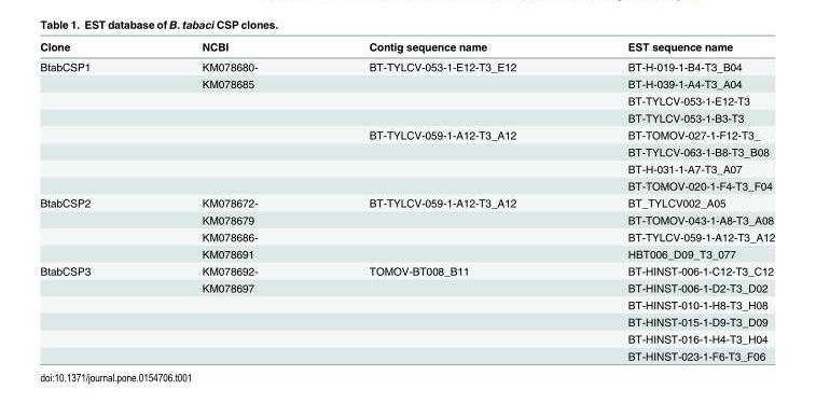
<table><thead><tr><td>Clone</td><td>NCBI</td><td>Contig sequence name</td><td>EST sequence name</td></tr></thead><tbody><tr><td rowspan="8">BtabCSP1</td><td>KM078680-</td><td>BT-TYLCV-053-1-E12-T3_E12</td><td>BT-H-019-1-B4-T3_B04</td></tr><tr><td>KM078685</td><td></td><td>BT-H-039-1-A4-T3_A04</td></tr><tr><td></td><td></td><td>BT-TYLCV-053-1-E12-T3</td></tr><tr><td></td><td></td><td>BT-TYLCV-053-1-B3-T3</td></tr><tr><td></td><td>BT-TYLCV-059-1-A12-T3_A12</td><td>BT-TOMOV-027-1-F12-T3_</td></tr><tr><td></td><td></td><td>BT-TYLCV-063-1-B8-T3_B08</td></tr><tr><td></td><td></td><td>BT-H-031-1-A7-T3_A07</td></tr><tr><td></td><td></td><td>BT-TOMOV-020-1-F4-T3_F04</td></tr><tr><td rowspan="4">BtabCSP2</td><td>KM078672-</td><td>BT-TYLCV-059-1-A12-T3_A12</td><td>BT_TYLCV002_A05</td></tr><tr><td>KM078679</td><td></td><td>BT-TOMOV-043-1-A8-T3_A08</td></tr><tr><td>KM078686-</td><td></td><td>BT-TYLCV-059-1-A12-T3_A12</td></tr><tr><td>KM078691</td><td></td><td>HBT006_D09_T3_077</td></tr><tr><td rowspan="6">BtabCSP3</td><td>KM078692-</td><td>TOMOV-BT008_B11</td><td>BT-HINST-006-1-C12-T3_C12</td></tr><tr><td>KM078697</td><td></td><td>BT-HINST-006-1-D2-T3_D02</td></tr><tr><td></td><td></td><td>BT-HINST-010-1-H8-T3_H08</td></tr><tr><td></td><td></td><td>BT-HINST-015-1-D9-T3_D09</td></tr><tr><td></td><td></td><td>BT-HINST-016-1-H4-T3_H04</td></tr><tr><td></td><td></td><td>BT-HINST-023-1-F6-T3_F06</td></tr></tbody></table>